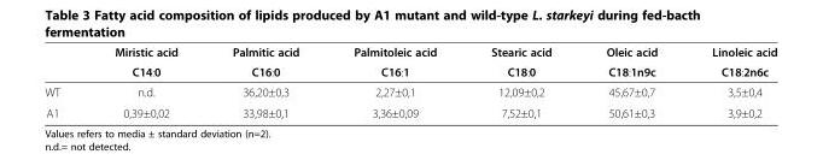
<table><thead><tr><td rowspan="2"></td><td rowspan="2">Miristic acid C14:0</td><td rowspan="2">Palmitic acid C16:0</td><td rowspan="2">Palmitoleic acid C16:1</td><td rowspan="2">Stearic acid C18:0</td><td rowspan="2">Oleic acid C18:1n9c</td><td rowspan="2">Linoleic acid C18:2n6c</td></tr><tr></tr></thead><tbody><tr><td>WT</td><td>n.d.</td><td>36,20±0,3</td><td>2,27±0,1</td><td>12,09±0,2</td><td>45,67±0,7</td><td>3,5±0,4</td></tr><tr><td>A1</td><td>0,39±0,02</td><td>33,98±0,1</td><td>3,36±0,09</td><td>7,52±0,1</td><td>50,61±0,3</td><td>3,9±0,2</td></tr></tbody></table>